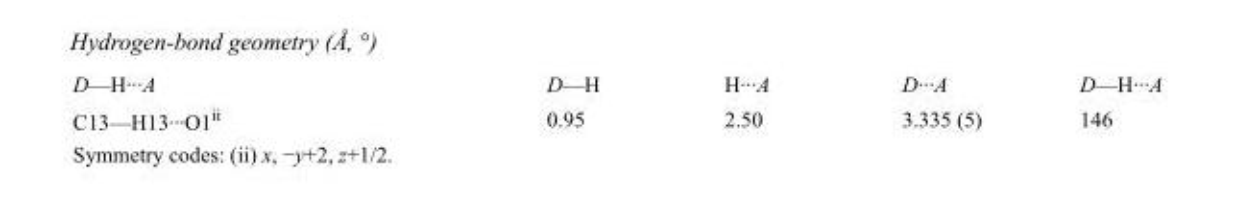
<table><tbody><tr><td>D—H···A</td><td>D—H</td><td>H···A</td><td>D···A</td><td>D—H···A</td></tr><tr><td>C13—H13···O1<sup>ii</sup></td><td>0.95</td><td>2.50</td><td>3.335 (5)</td><td>146</td></tr></tbody></table>